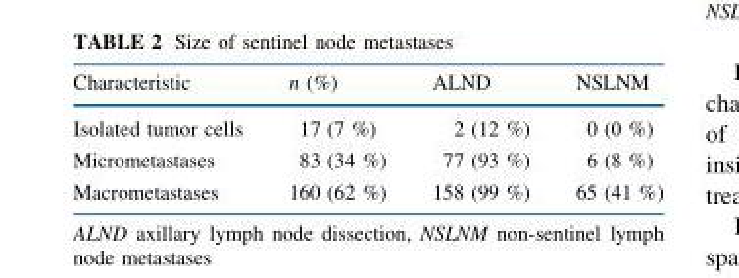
<table><thead><tr><td>Characteristic</td><td>n (%)</td><td>ALND</td><td>NSLNM</td></tr></thead><tbody><tr><td>Isolated tumor cells</td><td>17 (7 %)</td><td>2 (12 %)</td><td>0 (0 %)</td></tr><tr><td>Micrometastases</td><td>83 (34 %)</td><td>77 (93 %)</td><td>6 (8 %)</td></tr><tr><td>Macrometastases</td><td>160 (62 %)</td><td>158 (99 %)</td><td>65 (41 %)</td></tr></tbody></table>